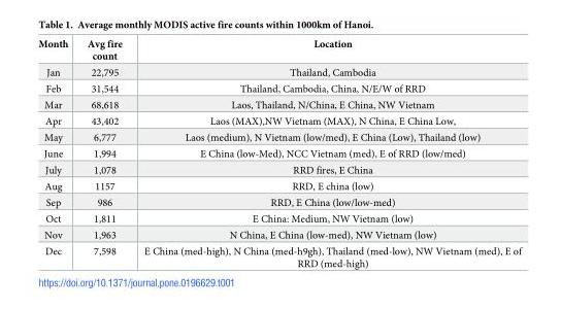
<table><thead><tr><td>Month</td><td>Avg fire count</td><td>Location</td></tr></thead><tbody><tr><td>Jan</td><td>22,795</td><td>Thailand, Cambodia</td></tr><tr><td>Feb</td><td>31,544</td><td>Thailand, Cambodia, China, N/E/W of RRD</td></tr><tr><td>Mar</td><td>68,618</td><td>Laos, Thailand, N/China, E China, NW Vietnam</td></tr><tr><td>Apr</td><td>43,402</td><td>Laos (MAX),NW Vietnam (MAX), N China, E China Low,</td></tr><tr><td>May</td><td>6,777</td><td>Laos (medium), N Vietnam (low/med), E China (Low), Thailand (low)</td></tr><tr><td>June</td><td>1,994</td><td>E China (low-Med), NCC Vietnam (med), E of RRD (low/med)</td></tr><tr><td>July</td><td>1,078</td><td>RRD fires, E China</td></tr><tr><td>Aug</td><td>1157</td><td>RRD, E china (low)</td></tr><tr><td>Sep</td><td>986</td><td>RRD, E China (low/low-med)</td></tr><tr><td>Oct</td><td>1,811</td><td>E China: Medium, NW Vietnam (low)</td></tr><tr><td>Nov</td><td>1,963</td><td>N China, E China (low-med), NW Vietnam (low)</td></tr><tr><td>Dec</td><td>7,598</td><td>E China (med-high), N China (med-h9gh), Thailand (med-low), NW Vietnam (med), E of RRD (med-high)</td></tr></tbody></table>